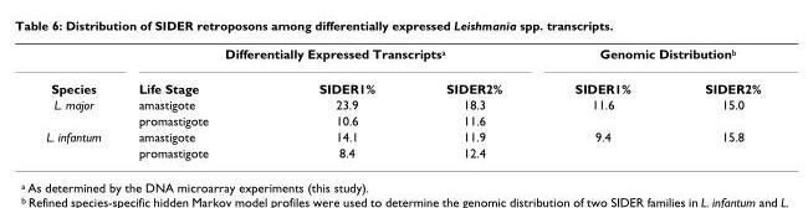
<table><thead><tr><td rowspan="2">Species</td><td colspan="3">Differentially Expressed Transcripts<sup>a</sup></td><td colspan="2">Genomic Distribution<sup>b</sup></td></tr><tr><td>Life Stage</td><td>SIDER1%</td><td>SIDER2%</td><td>SIDER1%</td><td>SIDER2%</td></tr></thead><tbody><tr><td rowspan="2">L. major</td><td>amastigote</td><td>23.9</td><td>18.3</td><td>11.6</td><td>15.0</td></tr><tr><td>promastigote</td><td>10.6</td><td>11.6</td><td></td><td></td></tr><tr><td rowspan="2">L. infantum</td><td>amastigote</td><td>14.1</td><td>11.9</td><td>9.4</td><td>15.8</td></tr><tr><td>promastigote</td><td>8.4</td><td>12.4</td><td></td><td></td></tr></tbody></table>